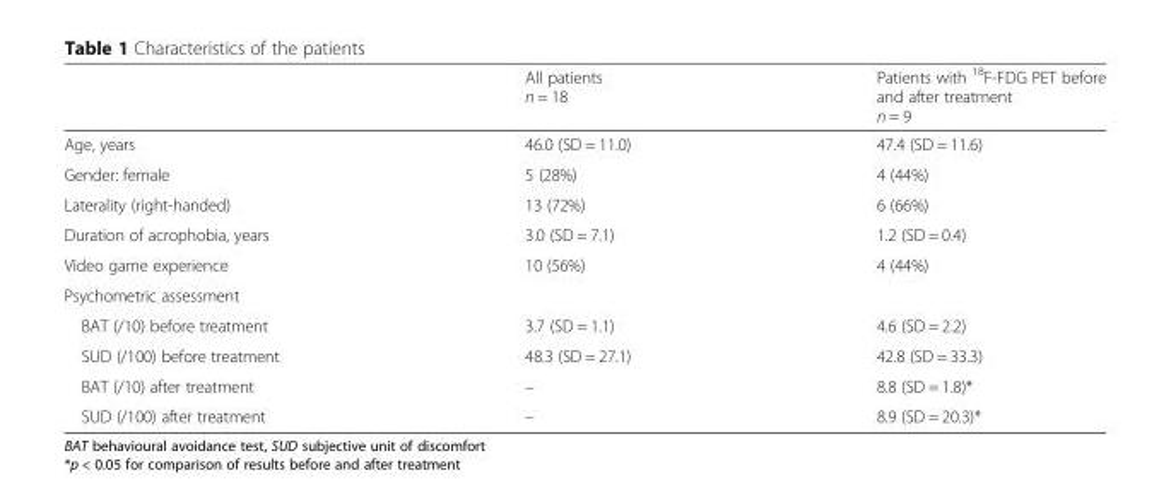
<table><thead><tr><td></td><td>All patients n = 18</td><td>Patients with <sup>18</sup>F-FDG PET before and after treatment n = 9</td></tr></thead><tbody><tr><td>Age, years</td><td>46.0 (SD = 11.0)</td><td>47.4 (SD = 11.6)</td></tr><tr><td>Gender: female</td><td>5 (28%)</td><td>4 (44%)</td></tr><tr><td>Laterality (right-handed)</td><td>13 (72%)</td><td>6 (66%)</td></tr><tr><td>Duration of acrophobia, years</td><td>3.0 (SD = 7.1)</td><td>1.2 (SD = 0.4)</td></tr><tr><td>Video game experience</td><td>10 (56%)</td><td>4 (44%)</td></tr><tr><td colspan="3">Psychometric assessment</td></tr><tr><td>BAT (/10) before treatment</td><td>3.7 (SD = 1.1)</td><td>4.6 (SD = 2.2)</td></tr><tr><td>SUD (/100) before treatment</td><td>48.3 (SD = 27.1)</td><td>42.8 (SD = 33.3)</td></tr><tr><td>BAT (/10) after treatment</td><td>–</td><td>8.8 (SD = 1.8)*</td></tr><tr><td>SUD (/100) after treatment</td><td>–</td><td>8.9 (SD = 20.3)*</td></tr></tbody></table>